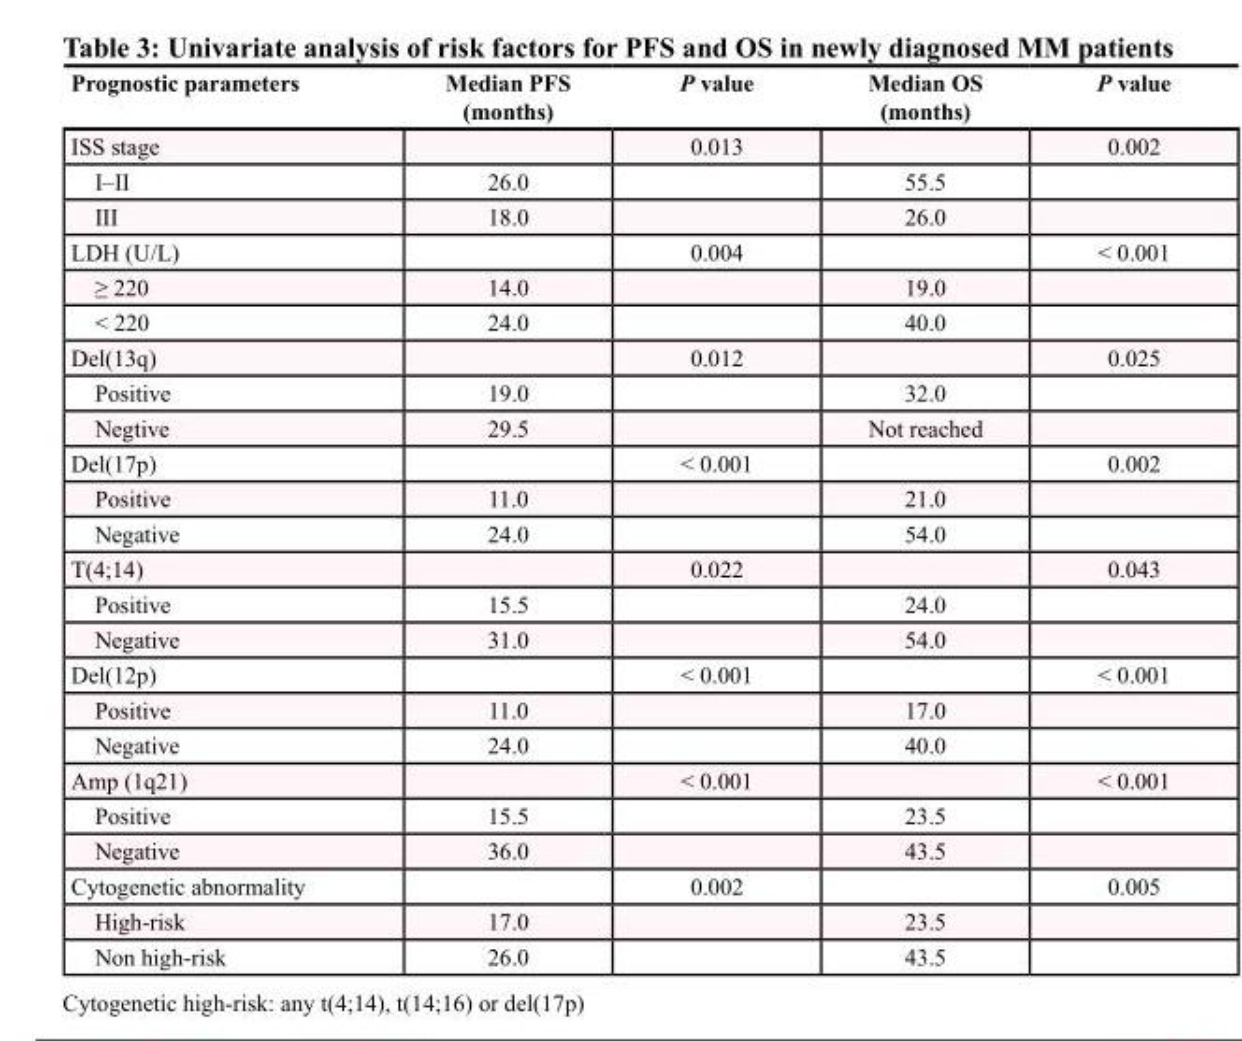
<table><thead><tr><td>Prognostic parameters</td><td>Median PFS (months)</td><td>P value</td><td>Median OS (months)</td><td>P value</td></tr></thead><tbody><tr><td>ISS stage</td><td></td><td>0.013</td><td></td><td>0.002</td></tr><tr><td>I–II</td><td>26.0</td><td></td><td>55.5</td><td></td></tr><tr><td>III</td><td>18.0</td><td></td><td>26.0</td><td></td></tr><tr><td>LDH (U/L)</td><td></td><td>0.004</td><td></td><td>&lt; 0.001</td></tr><tr><td>≥ 220</td><td>14.0</td><td></td><td>19.0</td><td></td></tr><tr><td>&lt; 220</td><td>24.0</td><td></td><td>40.0</td><td></td></tr><tr><td>Del(13q)</td><td></td><td>0.012</td><td></td><td>0.025</td></tr><tr><td>Positive</td><td>19.0</td><td></td><td>32.0</td><td></td></tr><tr><td>Negtive</td><td>29.5</td><td></td><td>Not reached</td><td></td></tr><tr><td>Del(17p)</td><td></td><td>&lt; 0.001</td><td></td><td>0.002</td></tr><tr><td>Positive</td><td>11.0</td><td></td><td>21.0</td><td></td></tr><tr><td>Negative</td><td>24.0</td><td></td><td>54.0</td><td></td></tr><tr><td>T(4;14)</td><td></td><td>0.022</td><td></td><td>0.043</td></tr><tr><td>Positive</td><td>15.5</td><td></td><td>24.0</td><td></td></tr><tr><td>Negative</td><td>31.0</td><td></td><td>54.0</td><td></td></tr><tr><td>Del(12p)</td><td></td><td>&lt; 0.001</td><td></td><td>&lt; 0.001</td></tr><tr><td>Positive</td><td>11.0</td><td></td><td>17.0</td><td></td></tr><tr><td>Negative</td><td>24.0</td><td></td><td>40.0</td><td></td></tr><tr><td>Amp (1q21)</td><td></td><td>&lt; 0.001</td><td></td><td>&lt; 0.001</td></tr><tr><td>Positive</td><td>15.5</td><td></td><td>23.5</td><td></td></tr><tr><td>Negative</td><td>36.0</td><td></td><td>43.5</td><td></td></tr><tr><td>Cytogenetic abnormality</td><td></td><td>0.002</td><td></td><td>0.005</td></tr><tr><td>High-risk</td><td>17.0</td><td></td><td>23.5</td><td></td></tr><tr><td>Non high-risk</td><td>26.0</td><td></td><td>43.5</td><td></td></tr></tbody></table>